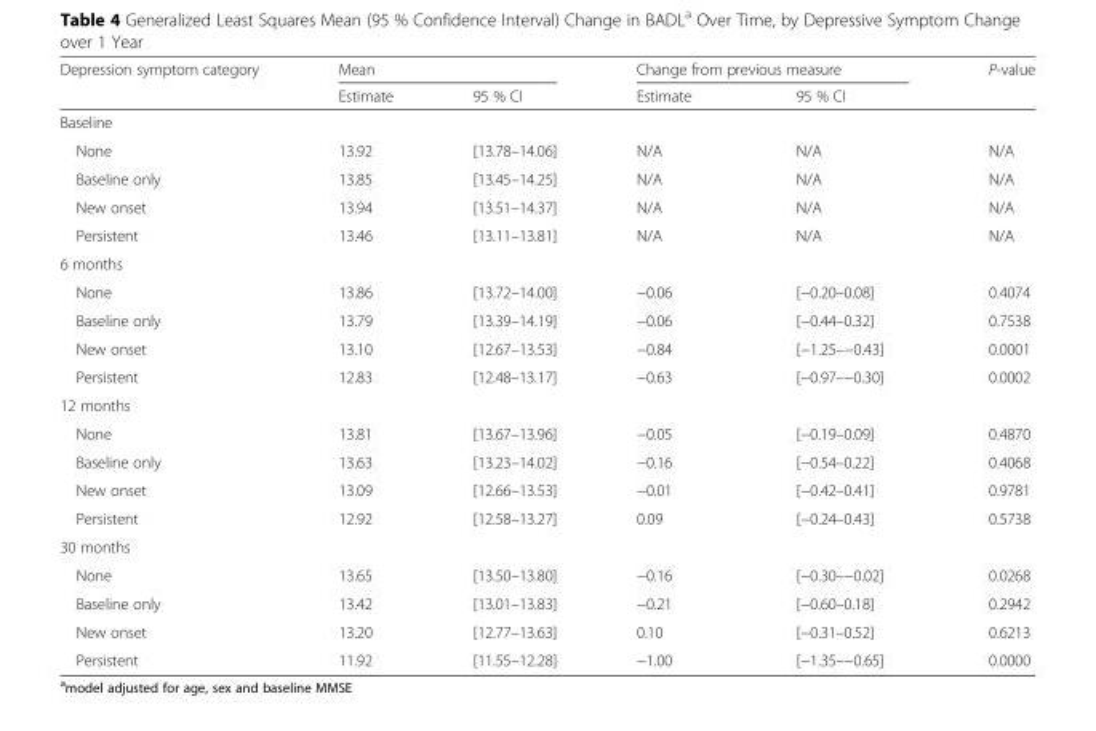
<table><thead><tr><td rowspan="2">Depression symptom category</td><td colspan="2">Mean</td><td colspan="2">Change from previous measure</td><td rowspan="2">P-value</td></tr><tr><td>Estimate</td><td>95 % CI</td><td>Estimate</td><td>95 % CI</td></tr></thead><tbody><tr><td colspan="6">Baseline</td></tr><tr><td>None</td><td>13.92</td><td>[13.78–14.06]</td><td>N/A</td><td>N/A</td><td>N/A</td></tr><tr><td>Baseline only</td><td>13.85</td><td>[13.45–14.25]</td><td>N/A</td><td>N/A</td><td>N/A</td></tr><tr><td>New onset</td><td>13.94</td><td>[13.51–14.37]</td><td>N/A</td><td>N/A</td><td>N/A</td></tr><tr><td>Persistent</td><td>13.46</td><td>[13.11–13.81]</td><td>N/A</td><td>N/A</td><td>N/A</td></tr><tr><td colspan="6">6 months</td></tr><tr><td>None</td><td>13.86</td><td>[13.72–14.00]</td><td>−0.06</td><td>[−0.20–0.08]</td><td>0.4074</td></tr><tr><td>Baseline only</td><td>13.79</td><td>[13.39–14.19]</td><td>−0.06</td><td>[−0.44–0.32]</td><td>0.7538</td></tr><tr><td>New onset</td><td>13.10</td><td>[12.67–13.53]</td><td>−0.84</td><td>[−1.25–−0.43]</td><td>0.0001</td></tr><tr><td>Persistent</td><td>12.83</td><td>[12.48–13.17]</td><td>−0.63</td><td>[−0.97–−0.30]</td><td>0.0002</td></tr><tr><td colspan="6">12 months</td></tr><tr><td>None</td><td>13.81</td><td>[13.67–13.96]</td><td>−0.05</td><td>[−0.19–0.09]</td><td>0.4870</td></tr><tr><td>Baseline only</td><td>13.63</td><td>[13.23–14.02]</td><td>−0.16</td><td>[−0.54–0.22]</td><td>0.4068</td></tr><tr><td>New onset</td><td>13.09</td><td>[12.66–13.53]</td><td>−0.01</td><td>[−0.42–0.41]</td><td>0.9781</td></tr><tr><td>Persistent</td><td>12.92</td><td>[12.58–13.27]</td><td>0.09</td><td>[−0.24–0.43]</td><td>0.5738</td></tr><tr><td colspan="6">30 months</td></tr><tr><td>None</td><td>13.65</td><td>[13.50–13.80]</td><td>−0.16</td><td>[−0.30–−0.02]</td><td>0.0268</td></tr><tr><td>Baseline only</td><td>13.42</td><td>[13.01–13.83]</td><td>−0.21</td><td>[−0.60–0.18]</td><td>0.2942</td></tr><tr><td>New onset</td><td>13.20</td><td>[12.77–13.63]</td><td>0.10</td><td>[−0.31–0.52]</td><td>0.6213</td></tr><tr><td>Persistent</td><td>11.92</td><td>[11.55–12.28]</td><td>−1.00</td><td>[−1.35–−0.65]</td><td>0.0000</td></tr></tbody></table>